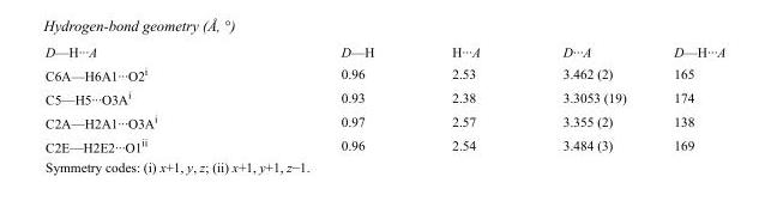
<table><tbody><tr><td>D—H···A</td><td>D—H</td><td>H···A</td><td>D···A</td><td>D—H···A</td></tr><tr><td>C6A—H6A1···O2<sup>i</sup></td><td>0.96</td><td>2.53</td><td>3.462 (2)</td><td>165</td></tr><tr><td>C5—H5···O3A<sup>i</sup></td><td>0.93</td><td>2.38</td><td>3.3053 (19)</td><td>174</td></tr><tr><td>C2A—H2A1···O3A<sup>i</sup></td><td>0.97</td><td>2.57</td><td>3.355 (2)</td><td>138</td></tr><tr><td>C2E—H2E2···O1<sup>ii</sup></td><td>0.96</td><td>2.54</td><td>3.484 (3)</td><td>169</td></tr></tbody></table>